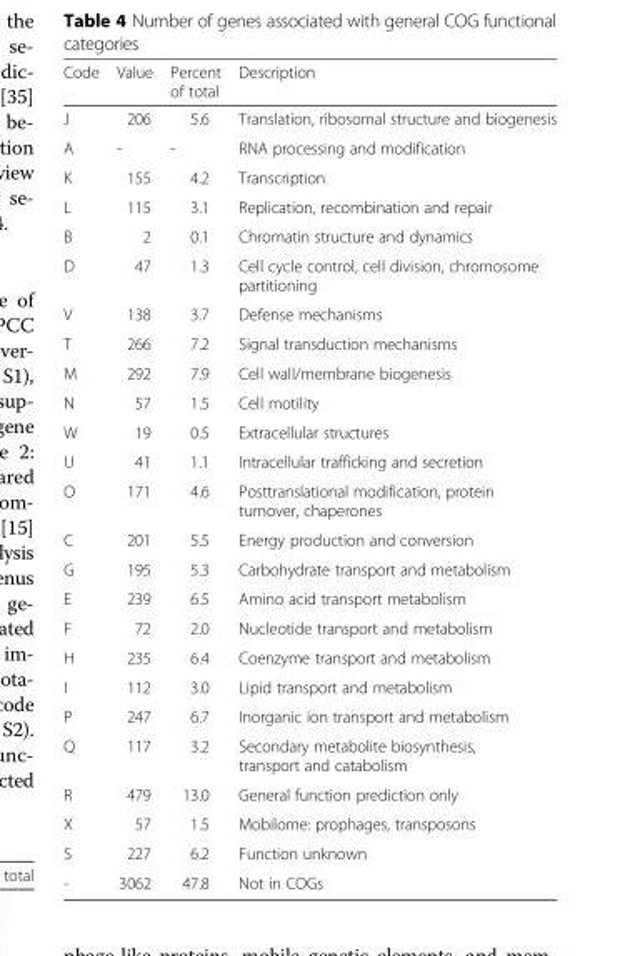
<table><thead><tr><td>Code</td><td>Value</td><td>Percent of total</td><td>Description</td></tr></thead><tbody><tr><td>J</td><td>206</td><td>5.6</td><td>Translation, ribosomal structure and biogenesis</td></tr><tr><td>A</td><td>-</td><td>-</td><td>RNA processing and modification</td></tr><tr><td>K</td><td>155</td><td>4.2</td><td>Transcription</td></tr><tr><td>L</td><td>115</td><td>3.1</td><td>Replication, recombination and repair</td></tr><tr><td>B</td><td>2</td><td>0.1</td><td>Chromatin structure and dynamics</td></tr><tr><td>D</td><td>47</td><td>1.3</td><td>Cell cycle control, cell division, chromosome partitioning</td></tr><tr><td>V</td><td>138</td><td>3.7</td><td>Defense mechanisms</td></tr><tr><td>T</td><td>266</td><td>7.2</td><td>Signal transduction mechanisms</td></tr><tr><td>M</td><td>292</td><td>7.9</td><td>Cell wall/membrane biogenesis</td></tr><tr><td>N</td><td>57</td><td>1.5</td><td>Cell motility</td></tr><tr><td>W</td><td>19</td><td>0.5</td><td>Extracellular structures</td></tr><tr><td>U</td><td>41</td><td>1.1</td><td>Intracellular trafficking and secretion</td></tr><tr><td>O</td><td>171</td><td>4.6</td><td>Posttranslational modification, protein turnover, chaperones</td></tr><tr><td>C</td><td>201</td><td>5.5</td><td>Energy production and conversion</td></tr><tr><td>G</td><td>195</td><td>5.3</td><td>Carbohydrate transport and metabolism</td></tr><tr><td>E</td><td>239</td><td>6.5</td><td>Amino acid transport metabolism</td></tr><tr><td>F</td><td>72</td><td>2.0</td><td>Nucleotide transport and metabolism</td></tr><tr><td>H</td><td>235</td><td>6.4</td><td>Coenzyme transport and metabolism</td></tr><tr><td>I</td><td>112</td><td>3.0</td><td>Lipid transport and metabolism</td></tr><tr><td>P</td><td>247</td><td>6.7</td><td>Inorganic ion transport and metabolism</td></tr><tr><td>Q</td><td>117</td><td>3.2</td><td>Secondary metabolite biosynthesis, transport and catabolism</td></tr><tr><td>R</td><td>479</td><td>13.0</td><td>General function prediction only</td></tr><tr><td>X</td><td>57</td><td>1.5</td><td>Mobilome: prophages, transposons</td></tr><tr><td>S</td><td>227</td><td>6.2</td><td>Function unknown</td></tr><tr><td>-</td><td>3062</td><td>47.8</td><td>Not in COGs</td></tr></tbody></table>